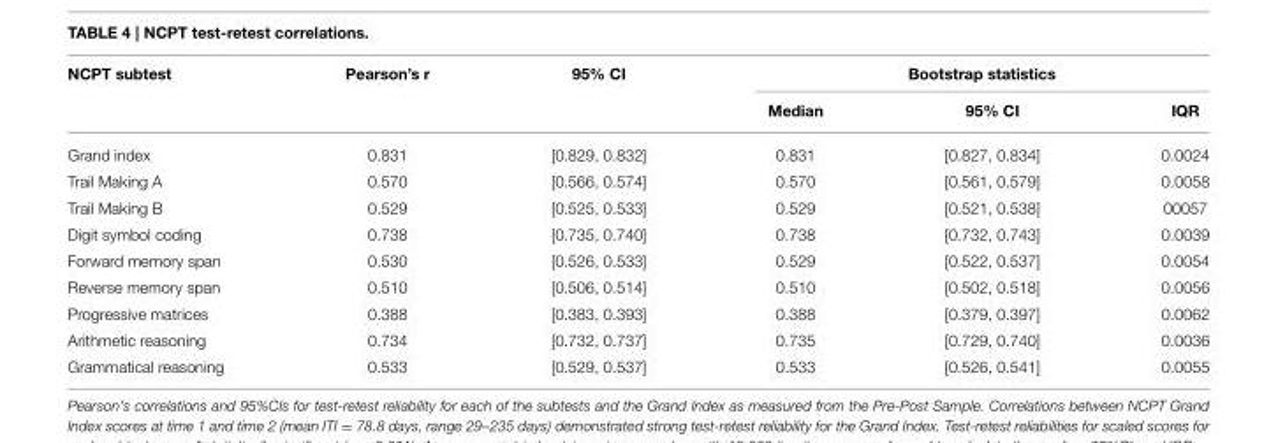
<table><thead><tr><td rowspan="2">NCPT subtest</td><td rowspan="2">Pearson’s r</td><td rowspan="2">95% CI</td><td colspan="3">Bootstrap statistics</td></tr><tr><td>Median</td><td>95% CI</td><td>IQR</td></tr></thead><tbody><tr><td>Grand index</td><td>0.831</td><td>[0.829, 0.832]</td><td>0.831</td><td>[0.827, 0.834]</td><td>0.0024</td></tr><tr><td>Trail Making A</td><td>0.570</td><td>[0.566, 0.574]</td><td>0.570</td><td>[0.561, 0.579]</td><td>0.0058</td></tr><tr><td>Trail Making B</td><td>0.529</td><td>[0.525, 0.533]</td><td>0.529</td><td>[0.521, 0.538]</td><td>00057</td></tr><tr><td>Digit symbol coding</td><td>0.738</td><td>[0.735, 0.740]</td><td>0.738</td><td>[0.732, 0.743]</td><td>0.0039</td></tr><tr><td>Forward memory span</td><td>0.530</td><td>[0.526, 0.533]</td><td>0.529</td><td>[0.522, 0.537]</td><td>0.0054</td></tr><tr><td>Reverse memory span</td><td>0.510</td><td>[0.506, 0.514]</td><td>0.510</td><td>[0.502, 0.518]</td><td>0.0056</td></tr><tr><td>Progressive matrices</td><td>0.388</td><td>[0.383, 0.393]</td><td>0.388</td><td>[0.379, 0.397]</td><td>0.0062</td></tr><tr><td>Arithmetic reasoning</td><td>0.734</td><td>[0.732, 0.737]</td><td>0.735</td><td>[0.729, 0.740]</td><td>0.0036</td></tr><tr><td>Grammatical reasoning</td><td>0.533</td><td>[0.529, 0.537]</td><td>0.533</td><td>[0.526, 0.541]</td><td>0.0055</td></tr></tbody></table>